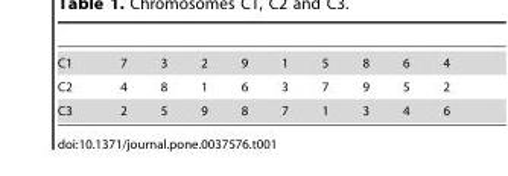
<table><tbody><tr><td>C1</td><td>7</td><td>3</td><td>2</td><td>9</td><td>1</td><td>5</td><td>8</td><td>6</td><td>4</td></tr><tr><td>C2</td><td>4</td><td>8</td><td>1</td><td>6</td><td>3</td><td>7</td><td>9</td><td>5</td><td>2</td></tr><tr><td>C3</td><td>2</td><td>5</td><td>9</td><td>8</td><td>7</td><td>1</td><td>3</td><td>4</td><td>6</td></tr></tbody></table>